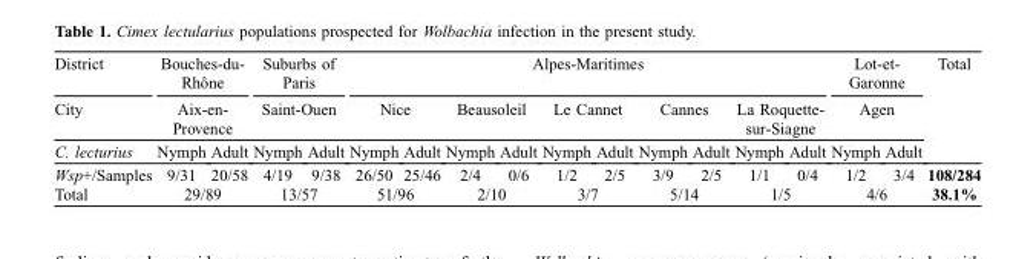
<table><thead><tr><td rowspan="3">District City C. lecturius</td><td rowspan="2" colspan="2">Bouches-du- Rhône Aix-en- Provence</td><td rowspan="2" colspan="2">Suburbs of Paris Saint-Ouen</td><td colspan="10">Alpes-Maritimes</td><td rowspan="2" colspan="2">Lot-et- Garonne Agen</td><td rowspan="3">Total</td></tr><tr><td colspan="2">Nice</td><td colspan="2">Beausoleil</td><td colspan="2">Le Cannet</td><td colspan="2">Cannes</td><td colspan="2">La Roquette- sur-Siagne</td></tr><tr><td>Nymph</td><td>Adult</td><td>Nymph</td><td>Adult</td><td>Nymph</td><td>Adult</td><td>Nymph</td><td>Adult</td><td>Nymph</td><td>Adult</td><td>Nymph</td><td>Adult</td><td>Nymph</td><td>Adult</td><td>Nymph</td><td>Adult</td></tr></thead><tbody><tr><td>Wsp+/Samples</td><td>9/31</td><td>20/58</td><td>4/19</td><td>9/38</td><td>26/50</td><td>25/46</td><td>2/4</td><td>0/6</td><td>1/2</td><td>2/5</td><td>3/9</td><td>2/5</td><td>1/1</td><td>0/4</td><td>1/2</td><td>3/4</td><td>108/284</td></tr><tr><td>Total</td><td colspan="2">29/89</td><td colspan="2">13/57</td><td colspan="2">51/96</td><td colspan="2">2/10</td><td colspan="2">3/7</td><td colspan="2">5/14</td><td colspan="2">1/5</td><td colspan="2">4/6</td><td>38.1%</td></tr></tbody></table>